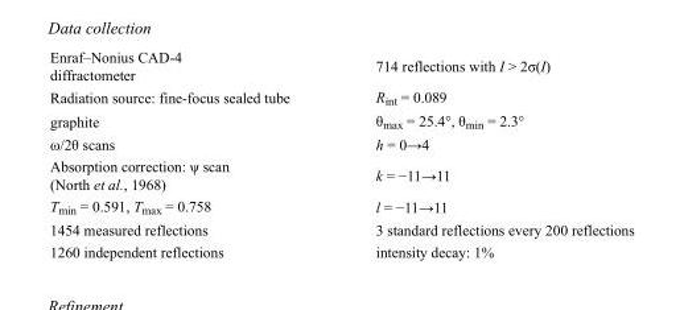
<table><tbody><tr><td>Enraf–Nonius CAD-4 diffractometer</td><td>714 reflections with I &gt; 2σ(I)</td></tr><tr><td>Radiation source: fine-focus sealed tube</td><td>R<sub>int</sub> = 0.089</td></tr><tr><td>graphite</td><td>θ<sub>max</sub> = 25.4°, θ<sub>min</sub> = 2.3°</td></tr><tr><td>ω/2θ scans</td><td>h = 0→4</td></tr><tr><td>Absorption correction: ψ scan (North et al., 1968)</td><td>k = −11→11</td></tr><tr><td>T<sub>min</sub> = 0.591, T<sub>max</sub> = 0.758</td><td>l = −11→11</td></tr><tr><td>1454 measured reflections</td><td>3 standard reflections every 200 reflections</td></tr><tr><td>1260 independent reflections</td><td>intensity decay: 1%</td></tr></tbody></table>